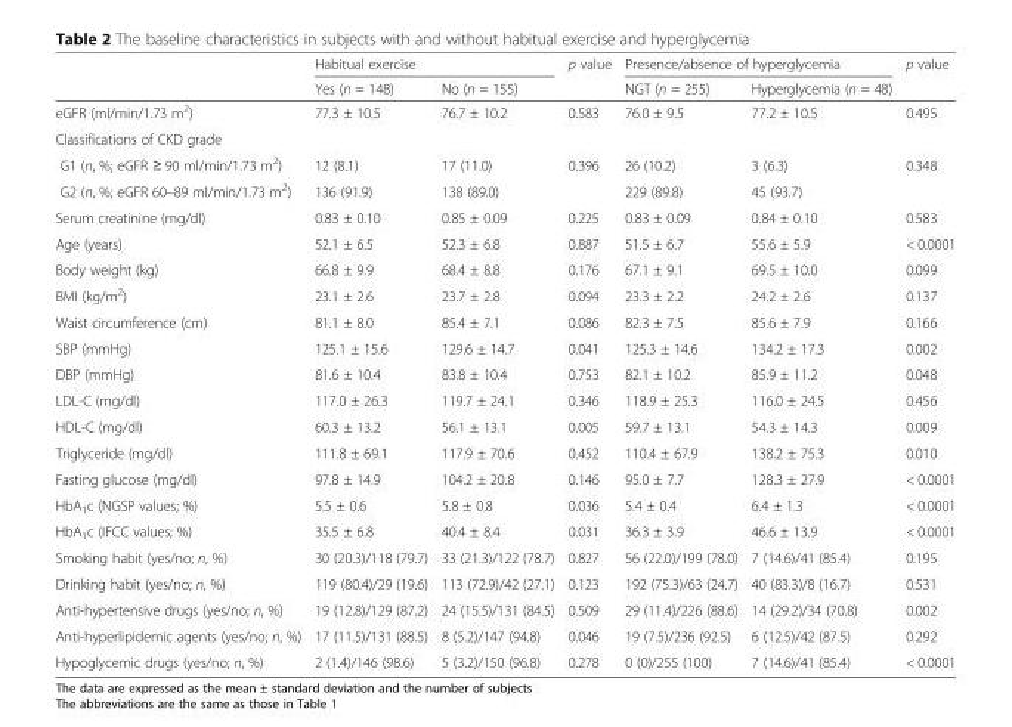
<table><thead><tr><td rowspan="2"></td><td colspan="2">Habitual exercise</td><td rowspan="2">p value</td><td colspan="2">Presence/absence of hyperglycemia</td><td rowspan="2">p value</td></tr><tr><td>Yes (n = 148)</td><td>No (n = 155)</td><td>NGT (n = 255)</td><td>Hyperglycemia (n = 48)</td></tr></thead><tbody><tr><td>eGFR (ml/min/1.73 m<sup>2</sup>)</td><td>77.3 ± 10.5</td><td>76.7 ± 10.2</td><td>0.583</td><td>76.0 ± 9.5</td><td>77.2 ± 10.5</td><td>0.495</td></tr><tr><td colspan="7">Classifications of CKD grade</td></tr><tr><td>G1 (n, %; eGFR ≥ 90 ml/min/1.73 m<sup>2</sup>)</td><td>12 (8.1)</td><td>17 (11.0)</td><td>0.396</td><td>26 (10.2)</td><td>3 (6.3)</td><td>0.348</td></tr><tr><td>G2 (n, %; eGFR 60–89 ml/min/1.73 m<sup>2</sup>)</td><td>136 (91.9)</td><td>138 (89.0)</td><td></td><td>229 (89.8)</td><td>45 (93.7)</td><td></td></tr><tr><td>Serum creatinine (mg/dl)</td><td>0.83 ± 0.10</td><td>0.85 ± 0.09</td><td>0.225</td><td>0.83 ± 0.09</td><td>0.84 ± 0.10</td><td>0.583</td></tr><tr><td>Age (years)</td><td>52.1 ± 6.5</td><td>52.3 ± 6.8</td><td>0.887</td><td>51.5 ± 6.7</td><td>55.6 ± 5.9</td><td>&lt; 0.0001</td></tr><tr><td>Body weight (kg)</td><td>66.8 ± 9.9</td><td>68.4 ± 8.8</td><td>0.176</td><td>67.1 ± 9.1</td><td>69.5 ± 10.0</td><td>0.099</td></tr><tr><td>BMI (kg/m<sup>2</sup>)</td><td>23.1 ± 2.6</td><td>23.7 ± 2.8</td><td>0.094</td><td>23.3 ± 2.2</td><td>24.2 ± 2.6</td><td>0.137</td></tr><tr><td>Waist circumference (cm)</td><td>81.1 ± 8.0</td><td>85.4 ± 7.1</td><td>0.086</td><td>82.3 ± 7.5</td><td>85.6 ± 7.9</td><td>0.166</td></tr><tr><td>SBP (mmHg)</td><td>125.1 ± 15.6</td><td>129.6 ± 14.7</td><td>0.041</td><td>125.3 ± 14.6</td><td>134.2 ± 17.3</td><td>0.002</td></tr><tr><td>DBP (mmHg)</td><td>81.6 ± 10.4</td><td>83.8 ± 10.4</td><td>0.753</td><td>82.1 ± 10.2</td><td>85.9 ± 11.2</td><td>0.048</td></tr><tr><td>LDL-C (mg/dl)</td><td>117.0 ± 26.3</td><td>119.7 ± 24.1</td><td>0.346</td><td>118.9 ± 25.3</td><td>116.0 ± 24.5</td><td>0.456</td></tr><tr><td>HDL-C (mg/dl)</td><td>60.3 ± 13.2</td><td>56.1 ± 13.1</td><td>0.005</td><td>59.7 ± 13.1</td><td>54.3 ± 14.3</td><td>0.009</td></tr><tr><td>Triglyceride (mg/dl)</td><td>111.8 ± 69.1</td><td>117.9 ± 70.6</td><td>0.452</td><td>110.4 ± 67.9</td><td>138.2 ± 75.3</td><td>0.010</td></tr><tr><td>Fasting glucose (mg/dl)</td><td>97.8 ± 14.9</td><td>104.2 ± 20.8</td><td>0.146</td><td>95.0 ± 7.7</td><td>128.3 ± 27.9</td><td>&lt; 0.0001</td></tr><tr><td>HbA<sub>1</sub>c (NGSP values; %)</td><td>5.5 ± 0.6</td><td>5.8 ± 0.8</td><td>0.036</td><td>5.4 ± 0.4</td><td>6.4 ± 1.3</td><td>&lt; 0.0001</td></tr><tr><td>HbA<sub>1</sub>c (IFCC values; %)</td><td>35.5 ± 6.8</td><td>40.4 ± 8.4</td><td>0.031</td><td>36.3 ± 3.9</td><td>46.6 ± 13.9</td><td>&lt; 0.0001</td></tr><tr><td>Smoking habit (yes/no; n, %)</td><td>30 (20.3)/118 (79.7)</td><td>33 (21.3)/122 (78.7)</td><td>0.827</td><td>56 (22.0)/199 (78.0)</td><td>7 (14.6)/41 (85.4)</td><td>0.195</td></tr><tr><td>Drinking habit (yes/no; n, %)</td><td>119 (80.4)/29 (19.6)</td><td>113 (72.9)/42 (27.1)</td><td>0.123</td><td>192 (75.3)/63 (24.7)</td><td>40 (83.3)/8 (16.7)</td><td>0.531</td></tr><tr><td>Anti-hypertensive drugs (yes/no; n, %)</td><td>19 (12.8)/129 (87.2)</td><td>24 (15.5)/131 (84.5)</td><td>0.509</td><td>29 (11.4)/226 (88.6)</td><td>14 (29.2)/34 (70.8)</td><td>0.002</td></tr><tr><td>Anti-hyperlipidemic agents (yes/no; n, %)</td><td>17 (11.5)/131 (88.5)</td><td>8 (5.2)/147 (94.8)</td><td>0.046</td><td>19 (7.5)/236 (92.5)</td><td>6 (12.5)/42 (87.5)</td><td>0.292</td></tr><tr><td>Hypoglycemic drugs (yes/no; n, %)</td><td>2 (1.4)/146 (98.6)</td><td>5 (3.2)/150 (96.8)</td><td>0.278</td><td>0 (0)/255 (100)</td><td>7 (14.6)/41 (85.4)</td><td>&lt; 0.0001</td></tr></tbody></table>